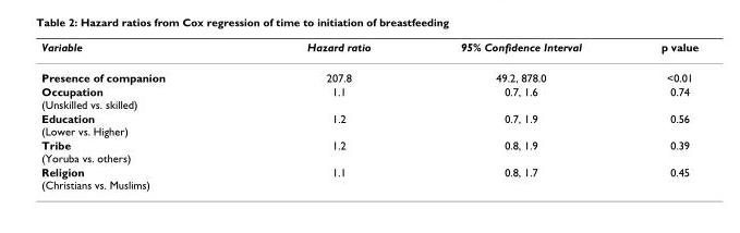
<table><thead><tr><td>Variable</td><td>Hazard ratio</td><td>95% Confidence Interval</td><td>p value</td></tr></thead><tbody><tr><td>Presence of companion</td><td>207.8</td><td>49.2, 878.0</td><td>&lt;0.01</td></tr><tr><td>Occupation (Unskilled vs. skilled)</td><td>1.1</td><td>0.7, 1.6</td><td>0.74</td></tr><tr><td>Education (Lower vs. Higher)</td><td>1.2</td><td>0.7, 1.9</td><td>0.56</td></tr><tr><td>Tribe (Yoruba vs. others)</td><td>1.2</td><td>0.8, 1.9</td><td>0.39</td></tr><tr><td>Religion (Christians vs. Muslims)</td><td>1.1</td><td>0.8, 1.7</td><td>0.45</td></tr></tbody></table>